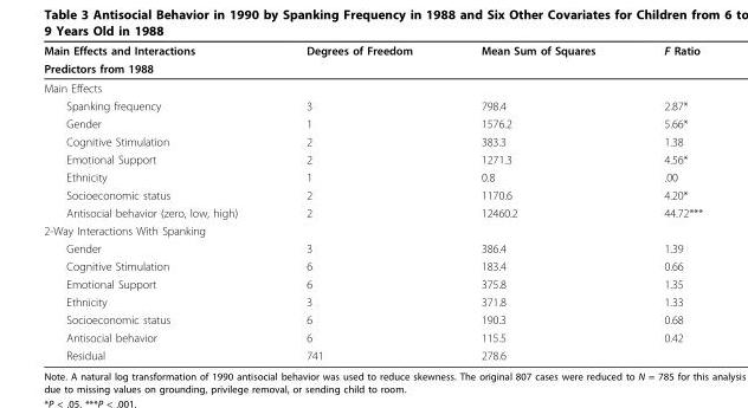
<table><thead><tr><td rowspan="2">Main Effects and Interactions Predictors from 1988</td><td rowspan="2">Degrees of Freedom</td><td rowspan="2">Mean Sum of Squares</td><td rowspan="2">F Ratio</td></tr><tr></tr></thead><tbody><tr><td colspan="4">Main Effects</td></tr><tr><td>Spanking frequency</td><td>3</td><td>798.4</td><td>2.87*</td></tr><tr><td>Gender</td><td>1</td><td>1576.2</td><td>5.66*</td></tr><tr><td>Cognitive Stimulation</td><td>2</td><td>383.3</td><td>1.38</td></tr><tr><td>Emotional Support</td><td>2</td><td>1271.3</td><td>4.56*</td></tr><tr><td>Ethnicity</td><td>1</td><td>0.8</td><td>.00</td></tr><tr><td>Socioeconomic status</td><td>2</td><td>1170.6</td><td>4.20*</td></tr><tr><td>Antisocial behavior (zero, low, high)</td><td>2</td><td>12460.2</td><td>44.72***</td></tr><tr><td colspan="4">2-Way Interactions With Spanking</td></tr><tr><td>Gender</td><td>3</td><td>386.4</td><td>1.39</td></tr><tr><td>Cognitive Stimulation</td><td>6</td><td>183.4</td><td>0.66</td></tr><tr><td>Emotional Support</td><td>6</td><td>375.8</td><td>1.35</td></tr><tr><td>Ethnicity</td><td>3</td><td>371.8</td><td>1.33</td></tr><tr><td>Socioeconomic status</td><td>6</td><td>190.3</td><td>0.68</td></tr><tr><td>Antisocial behavior</td><td>6</td><td>115.5</td><td>0.42</td></tr><tr><td>Residual</td><td>741</td><td>278.6</td><td></td></tr></tbody></table>